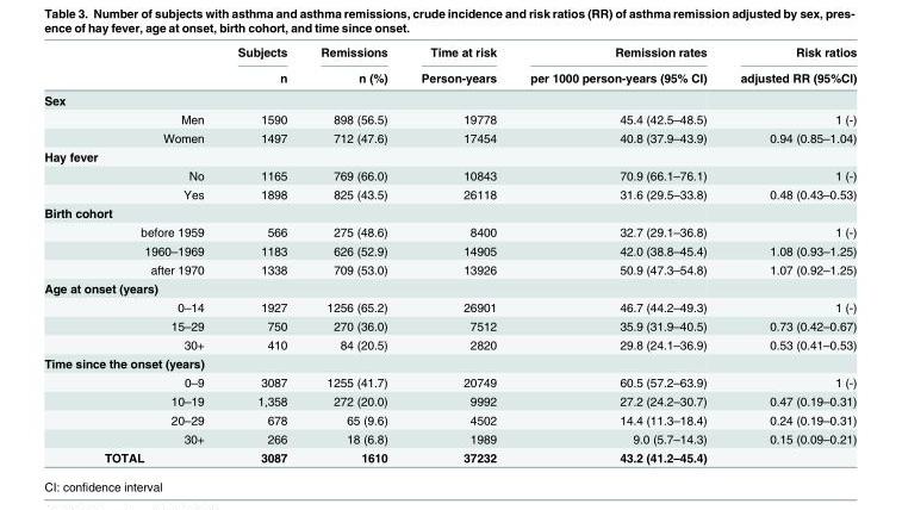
<table><thead><tr><td rowspan="2"></td><td rowspan="2">Subjects n</td><td rowspan="2">Remissions n (%)</td><td rowspan="2">Time at risk Person-years</td><td rowspan="2">Remission rates per 1000 person-years (95% CI)</td><td rowspan="2">Risk ratios adjusted RR (95%CI)</td></tr><tr></tr></thead><tbody><tr><td colspan="6">Sex</td></tr><tr><td>Men</td><td>1590</td><td>898 (56.5)</td><td>19778</td><td>45.4 (42.5–48.5)</td><td>1 (-)</td></tr><tr><td>Women</td><td>1497</td><td>712 (47.6)</td><td>17454</td><td>40.8 (37.9–43.9)</td><td>0.94 (0.85–1.04)</td></tr><tr><td colspan="6">Hay fever</td></tr><tr><td>No</td><td>1165</td><td>769 (66.0)</td><td>10843</td><td>70.9 (66.1–76.1)</td><td>1 (-)</td></tr><tr><td>Yes</td><td>1898</td><td>825 (43.5)</td><td>26118</td><td>31.6 (29.5–33.8)</td><td>0.48 (0.43–0.53)</td></tr><tr><td colspan="6">Birth cohort</td></tr><tr><td>before 1959</td><td>566</td><td>275 (48.6)</td><td>8400</td><td>32.7 (29.1–36.8)</td><td>1 (-)</td></tr><tr><td>1960–1969</td><td>1183</td><td>626 (52.9)</td><td>14905</td><td>42.0 (38.8–45.4)</td><td>1.08 (0.93–1.25)</td></tr><tr><td>after 1970</td><td>1338</td><td>709 (53.0)</td><td>13926</td><td>50.9 (47.3–54.8)</td><td>1.07 (0.92–1.25)</td></tr><tr><td colspan="6">Age at onset (years)</td></tr><tr><td>0–14</td><td>1927</td><td>1256 (65.2)</td><td>26901</td><td>46.7 (44.2–49.3)</td><td>1 (-)</td></tr><tr><td>15–29</td><td>750</td><td>270 (36.0)</td><td>7512</td><td>35.9 (31.9–40.5)</td><td>0.73 (0.42–0.67)</td></tr><tr><td>30+</td><td>410</td><td>84 (20.5)</td><td>2820</td><td>29.8 (24.1–36.9)</td><td>0.53 (0.41–0.53)</td></tr><tr><td colspan="6">Time since the onset (years)</td></tr><tr><td>0–9</td><td>3087</td><td>1255 (41.7)</td><td>20749</td><td>60.5 (57.2–63.9)</td><td>1 (-)</td></tr><tr><td>10–19</td><td>1,358</td><td>272 (20.0)</td><td>9992</td><td>27.2 (24.2–30.7)</td><td>0.47 (0.19–0.31)</td></tr><tr><td>20–29</td><td>678</td><td>65 (9.6)</td><td>4502</td><td>14.4 (11.3–18.4)</td><td>0.24 (0.19–0.31)</td></tr><tr><td>30+</td><td>266</td><td>18 (6.8)</td><td>1989</td><td>9.0 (5.7–14.3)</td><td>0.15 (0.09–0.21)</td></tr><tr><td>TOTAL</td><td>3087</td><td>1610</td><td>37232</td><td>43.2 (41.2–45.4)</td><td></td></tr></tbody></table>